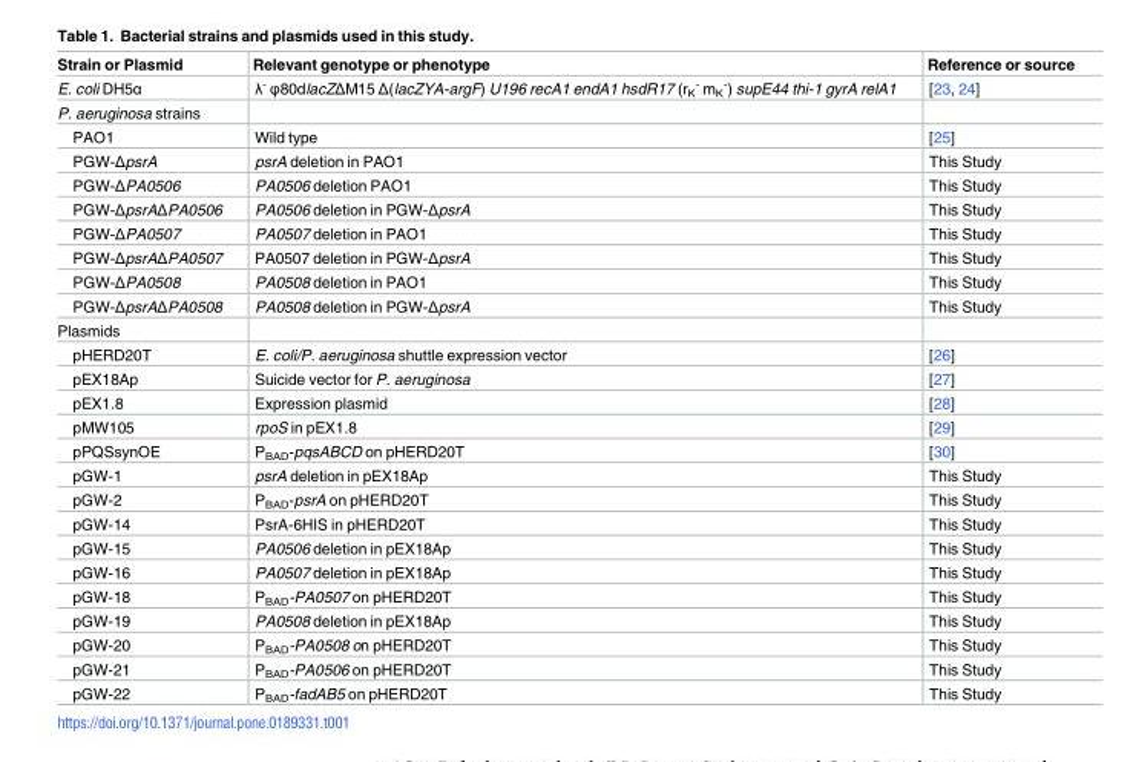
<table><thead><tr><td>Strain or Plasmid</td><td>Relevant genotype or phenotype</td><td>Reference or source</td></tr></thead><tbody><tr><td>E. coli DH5α</td><td>λ<sup>-</sup> φ80dlacZΔM15 Δ(lacZYA-argF) U196 recA1 endA1 hsdR17 (r<sub>K</sub> <sup>-</sup> m<sub>K</sub> <sup>-</sup>) supE44 thi-1 gyrA relA1</td><td>[23, 24]</td></tr><tr><td colspan="3">P. aeruginosa strains</td></tr><tr><td>PAO1</td><td>Wild type</td><td>[25]</td></tr><tr><td>PGW-ΔpsrA</td><td>psrA deletion in PAO1</td><td>This Study</td></tr><tr><td>PGW-ΔPA0506</td><td>PA0506 deletion PAO1</td><td>This Study</td></tr><tr><td>PGW-ΔpsrAΔPA0506</td><td>PA0506 deletion in PGW-ΔpsrA</td><td>This Study</td></tr><tr><td>PGW-ΔPA0507</td><td>PA0507 deletion in PAO1</td><td>This Study</td></tr><tr><td>PGW-ΔpsrAΔPA0507</td><td>PA0507 deletion in PGW-ΔpsrA</td><td>This Study</td></tr><tr><td>PGW-ΔPA0508</td><td>PA0508 deletion in PAO1</td><td>This Study</td></tr><tr><td>PGW-ΔpsrAΔPA0508</td><td>PA0508 deletion in PGW-ΔpsrA</td><td>This Study</td></tr><tr><td colspan="3">Plasmids</td></tr><tr><td>pHERD20T</td><td>E. coli/P. aeruginosa shuttle expression vector</td><td>[26]</td></tr><tr><td>pEX18Ap</td><td>Suicide vector for P. aeruginosa</td><td>[27]</td></tr><tr><td>pEX1.8</td><td>Expression plasmid</td><td>[28]</td></tr><tr><td>pMW105</td><td>rpoS in pEX1.8</td><td>[29]</td></tr><tr><td>pPQSsynOE</td><td>P<sub>BAD</sub>-pqsABCD on pHERD20T</td><td>[30]</td></tr><tr><td>pGW-1</td><td>psrA deletion in pEX18Ap</td><td>This Study</td></tr><tr><td>pGW-2</td><td>P<sub>BAD</sub>-psrA on pHERD20T</td><td>This Study</td></tr><tr><td>pGW-14</td><td>PsrA-6HIS in pHERD20T</td><td>This Study</td></tr><tr><td>pGW-15</td><td>PA0506 deletion in pEX18Ap</td><td>This Study</td></tr><tr><td>pGW-16</td><td>PA0507 deletion in pEX18Ap</td><td>This Study</td></tr><tr><td>pGW-18</td><td>P<sub>BAD</sub>-PA0507 on pHERD20T</td><td>This Study</td></tr><tr><td>pGW-19</td><td>PA0508 deletion in pEX18Ap</td><td>This Study</td></tr><tr><td>pGW-20</td><td>P<sub>BAD</sub>-PA0508 on pHERD20T</td><td>This Study</td></tr><tr><td>pGW-21</td><td>P<sub>BAD</sub>-PA0506 on pHERD20T</td><td>This Study</td></tr><tr><td>pGW-22</td><td>P<sub>BAD</sub>-fadAB5 on pHERD20T</td><td>This Study</td></tr></tbody></table>